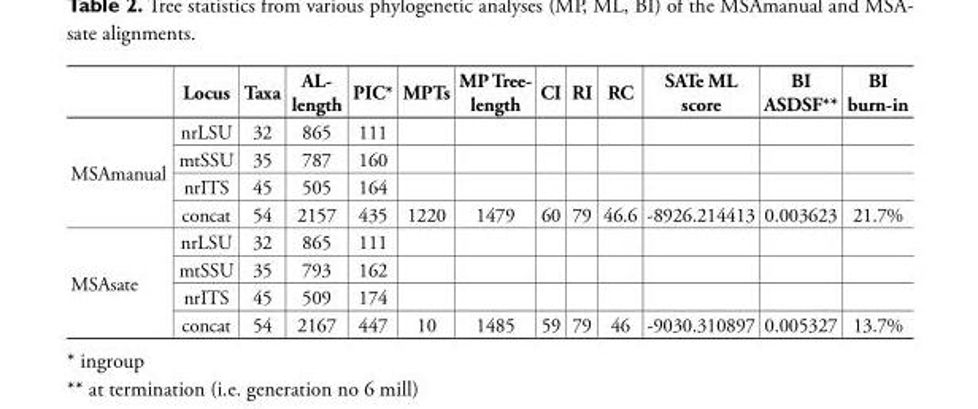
<table><thead><tr><td></td><td>Locus</td><td>Taxa</td><td>AL- length</td><td>PIC*</td><td>MPTs</td><td>MP Tree- length</td><td>CI</td><td>RI</td><td>RC</td><td>SATe ML score</td><td>BI ASDSF**</td><td>BI burn-in</td></tr></thead><tbody><tr><td rowspan="4">MSAmanual</td><td>nrLSU</td><td>32</td><td>865</td><td>111</td><td></td><td></td><td></td><td></td><td></td><td></td><td></td><td></td></tr><tr><td>mtSSU</td><td>35</td><td>787</td><td>160</td><td></td><td></td><td></td><td></td><td></td><td></td><td></td><td></td></tr><tr><td>nrITS</td><td>45</td><td>505</td><td>164</td><td></td><td></td><td></td><td></td><td></td><td></td><td></td><td></td></tr><tr><td>concat</td><td>54</td><td>2157</td><td>435</td><td>1220</td><td>1479</td><td>60</td><td>79</td><td>46.6</td><td>-8926.214413</td><td>0.003623</td><td>21.7%</td></tr><tr><td rowspan="4">MSAsate</td><td>nrLSU</td><td>32</td><td>865</td><td>111</td><td></td><td></td><td></td><td></td><td></td><td></td><td></td><td></td></tr><tr><td>mtSSU</td><td>35</td><td>793</td><td>162</td><td></td><td></td><td></td><td></td><td></td><td></td><td></td><td></td></tr><tr><td>nrITS</td><td>45</td><td>509</td><td>174</td><td></td><td></td><td></td><td></td><td></td><td></td><td></td><td></td></tr><tr><td>concat</td><td>54</td><td>2167</td><td>447</td><td>10</td><td>1485</td><td>59</td><td>79</td><td>46</td><td>-9030.310897</td><td>0.005327</td><td>13.7%</td></tr></tbody></table>